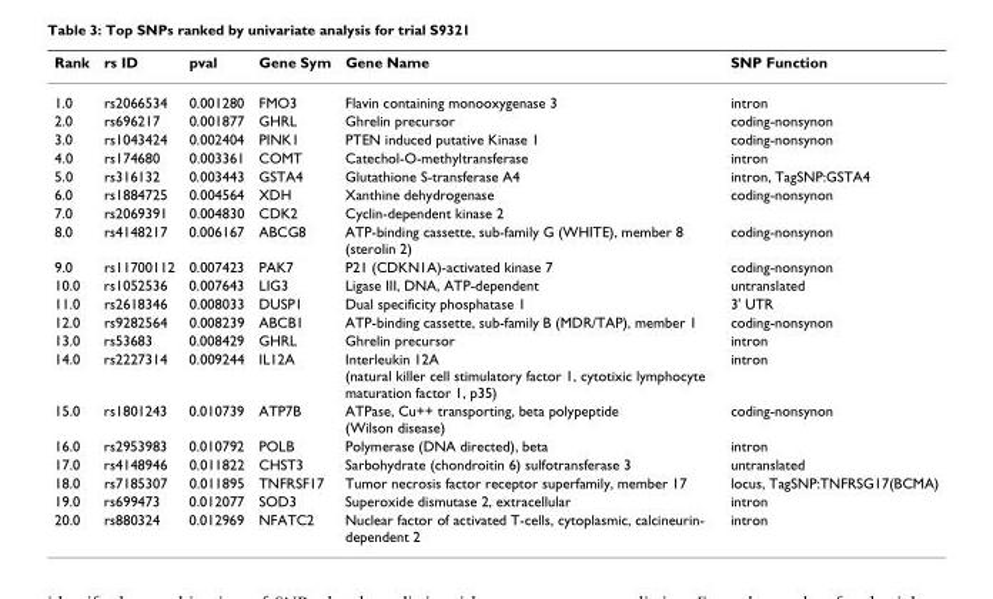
<table><thead><tr><td>Rank</td><td>rs ID</td><td>pval</td><td>Gene Sym</td><td>Gene Name</td><td>SNP Function</td></tr></thead><tbody><tr><td>1.0</td><td>rs2066534</td><td>0.001280</td><td>FMO3</td><td>Flavin containing monooxygenase 3</td><td>intron</td></tr><tr><td>2.0</td><td>rs696217</td><td>0.001877</td><td>GHRL</td><td>Ghrelin precursor</td><td>coding-nonsynon</td></tr><tr><td>3.0</td><td>rs1043424</td><td>0.002404</td><td>PINK1</td><td>PTEN induced putative Kinase 1</td><td>coding-nonsynon</td></tr><tr><td>4.0</td><td>rs174680</td><td>0.003361</td><td>COMT</td><td>Catechol-O-methyltransferase</td><td>intron</td></tr><tr><td>5.0</td><td>rs316132</td><td>0.003443</td><td>GSTA4</td><td>Glutathione S-transferase A4</td><td>intron, TagSNP:GSTA4</td></tr><tr><td>6.0</td><td>rs1884725</td><td>0.004564</td><td>XDH</td><td>Xanthine dehydrogenase</td><td>coding-nonsynon</td></tr><tr><td>7.0</td><td>rs2069391</td><td>0.004830</td><td>CDK2</td><td>Cyclin-dependent kinase 2</td><td></td></tr><tr><td>8.0</td><td>rs4148217</td><td>0.006167</td><td>ABCG8</td><td>ATP-binding cassette, sub-family G (WHITE), member 8 (sterolin 2)</td><td>coding-nonsynon</td></tr><tr><td>9.0</td><td>rs11700112</td><td>0.007423</td><td>PAK7</td><td>P21 (CDKN1A)-activated kinase 7</td><td>coding-nonsynon</td></tr><tr><td>10.0</td><td>rs1052536</td><td>0.007643</td><td>LIG3</td><td>Ligase III, DNA, ATP-dependent</td><td>untranslated</td></tr><tr><td>11.0</td><td>rs2618346</td><td>0.008033</td><td>DUSP1</td><td>Dual specificity phosphatase 1</td><td>3&#x27; UTR</td></tr><tr><td>12.0</td><td>rs9282564</td><td>0.008239</td><td>ABCB1</td><td>ATP-binding cassette, sub-family B (MDR/TAP), member 1</td><td>coding-nonsynon</td></tr><tr><td>13.0</td><td>rs53683</td><td>0.008429</td><td>GHRL</td><td>Ghrelin precursor</td><td>intron</td></tr><tr><td>14.0</td><td>rs2227314</td><td>0.009244</td><td>IL12A</td><td>Interleukin 12A (natural killer cell stimulatory factor 1, cytotixic lymphocyte maturation factor 1, p35)</td><td>intron</td></tr><tr><td>15.0</td><td>rs1801243</td><td>0.010739</td><td>ATP7B</td><td>ATPase, Cu++ transporting, beta polypeptide (Wilson disease)</td><td>coding-nonsynon</td></tr><tr><td>16.0</td><td>rs2953983</td><td>0.010792</td><td>POLB</td><td>Polymerase (DNA directed), beta</td><td>intron</td></tr><tr><td>17.0</td><td>rs4148946</td><td>0.011822</td><td>CHST3</td><td>Sarbohydrate (chondroitin 6) sulfotransferase 3</td><td>untranslated</td></tr><tr><td>18.0</td><td>rs7185307</td><td>0.011895</td><td>TNFRSF17</td><td>Tumor necrosis factor receptor superfamily, member 17</td><td>locus, TagSNP:TNFRSG17(BCMA)</td></tr><tr><td>19.0</td><td>rs699473</td><td>0.012077</td><td>SOD3</td><td>Superoxide dismutase 2, extracellular</td><td>intron</td></tr><tr><td>20.0</td><td>rs880324</td><td>0.012969</td><td>NFATC2</td><td>Nuclear factor of activated T-cells, cytoplasmic, calcineurin- dependent 2</td><td>intron</td></tr></tbody></table>